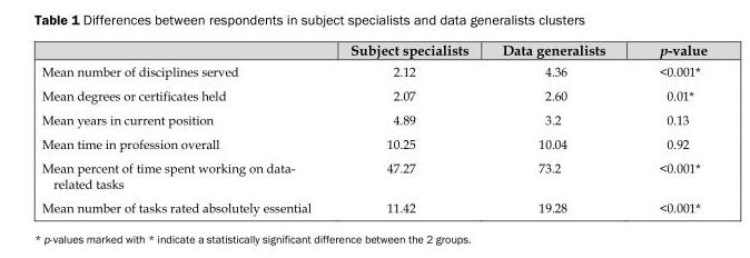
<table><thead><tr><td></td><td>Subject specialists</td><td>Data generalists</td><td>p-value</td></tr></thead><tbody><tr><td>Mean number of disciplines served</td><td>2.12</td><td>4.36</td><td>&lt;0.001*</td></tr><tr><td>Mean degrees or certificates held</td><td>2.07</td><td>2.60</td><td>0.01*</td></tr><tr><td>Mean years in current position</td><td>4.89</td><td>3.2</td><td>0.13</td></tr><tr><td>Mean time in profession overall</td><td>10.25</td><td>10.04</td><td>0.92</td></tr><tr><td>Mean percent of time spent working on data- related tasks</td><td>47.27</td><td>73.2</td><td>&lt;0.001*</td></tr><tr><td>Mean number of tasks rated absolutely essential</td><td>11.42</td><td>19.28</td><td>&lt;0.001*</td></tr></tbody></table>